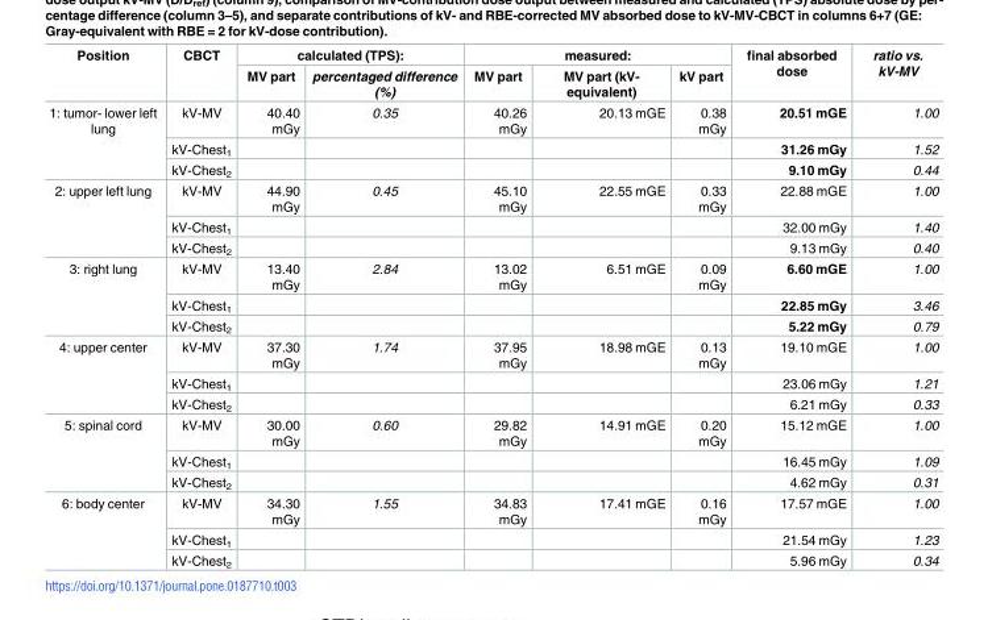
<table><thead><tr><td rowspan="2">Position</td><td rowspan="2">CBCT</td><td colspan="2">calculated (TPS):</td><td colspan="3">measured:</td><td rowspan="2">final absorbed dose</td><td rowspan="2">ratio vs. kV-MV</td></tr><tr><td>MV part</td><td>percentaged difference (%)</td><td>MV part</td><td>MV part (kV- equivalent)</td><td>kV part</td></tr></thead><tbody><tr><td rowspan="3">1: tumor- lower left lung</td><td>kV-MV</td><td>40.40 mGy</td><td>0.35</td><td>40.26 mGy</td><td>20.13 mGE</td><td>0.38 mGy</td><td>20.51 mGE</td><td>1.00</td></tr><tr><td>kV-Chest<sub>1</sub></td><td></td><td></td><td></td><td></td><td></td><td>31.26 mGy</td><td>1.52</td></tr><tr><td>kV-Chest<sub>2</sub></td><td></td><td></td><td></td><td></td><td></td><td>9.10 mGy</td><td>0.44</td></tr><tr><td rowspan="3">2: upper left lung</td><td>kV-MV</td><td>44.90 mGy</td><td>0.45</td><td>45.10 mGy</td><td>22.55 mGE</td><td>0.33 mGy</td><td>22.88 mGE</td><td>1.00</td></tr><tr><td>kV-Chest<sub>1</sub></td><td></td><td></td><td></td><td></td><td></td><td>32.00 mGy</td><td>1.40</td></tr><tr><td>kV-Chest<sub>2</sub></td><td></td><td></td><td></td><td></td><td></td><td>9.13 mGy</td><td>0.40</td></tr><tr><td rowspan="3">3: right lung</td><td>kV-MV</td><td>13.40 mGy</td><td>2.84</td><td>13.02 mGy</td><td>6.51 mGE</td><td>0.09 mGy</td><td>6.60 mGE</td><td>1.00</td></tr><tr><td>kV-Chest<sub>1</sub></td><td></td><td></td><td></td><td></td><td></td><td>22.85 mGy</td><td>3.46</td></tr><tr><td>kV-Chest<sub>2</sub></td><td></td><td></td><td></td><td></td><td></td><td>5.22 mGy</td><td>0.79</td></tr><tr><td rowspan="3">4: upper center</td><td>kV-MV</td><td>37.30 mGy</td><td>1.74</td><td>37.95 mGy</td><td>18.98 mGE</td><td>0.13 mGy</td><td>19.10 mGE</td><td>1.00</td></tr><tr><td>kV-Chest<sub>1</sub></td><td></td><td></td><td></td><td></td><td></td><td>23.06 mGy</td><td>1.21</td></tr><tr><td>kV-Chest<sub>2</sub></td><td></td><td></td><td></td><td></td><td></td><td>6.21 mGy</td><td>0.33</td></tr><tr><td rowspan="3">5: spinal cord</td><td>kV-MV</td><td>30.00 mGy</td><td>0.60</td><td>29.82 mGy</td><td>14.91 mGE</td><td>0.20 mGy</td><td>15.12 mGE</td><td>1.00</td></tr><tr><td>kV-Chest<sub>1</sub></td><td></td><td></td><td></td><td></td><td></td><td>16.45 mGy</td><td>1.09</td></tr><tr><td>kV-Chest<sub>2</sub></td><td></td><td></td><td></td><td></td><td></td><td>4.62 mGy</td><td>0.31</td></tr><tr><td rowspan="3">6: body center</td><td>kV-MV</td><td>34.30 mGy</td><td>1.55</td><td>34.83 mGy</td><td>17.41 mGE</td><td>0.16 mGy</td><td>17.57 mGE</td><td>1.00</td></tr><tr><td>kV-Chest<sub>1</sub></td><td></td><td></td><td></td><td></td><td></td><td>21.54 mGy</td><td>1.23</td></tr><tr><td>kV-Chest<sub>2</sub></td><td></td><td></td><td></td><td></td><td></td><td>5.96 mGy</td><td>0.34</td></tr></tbody></table>